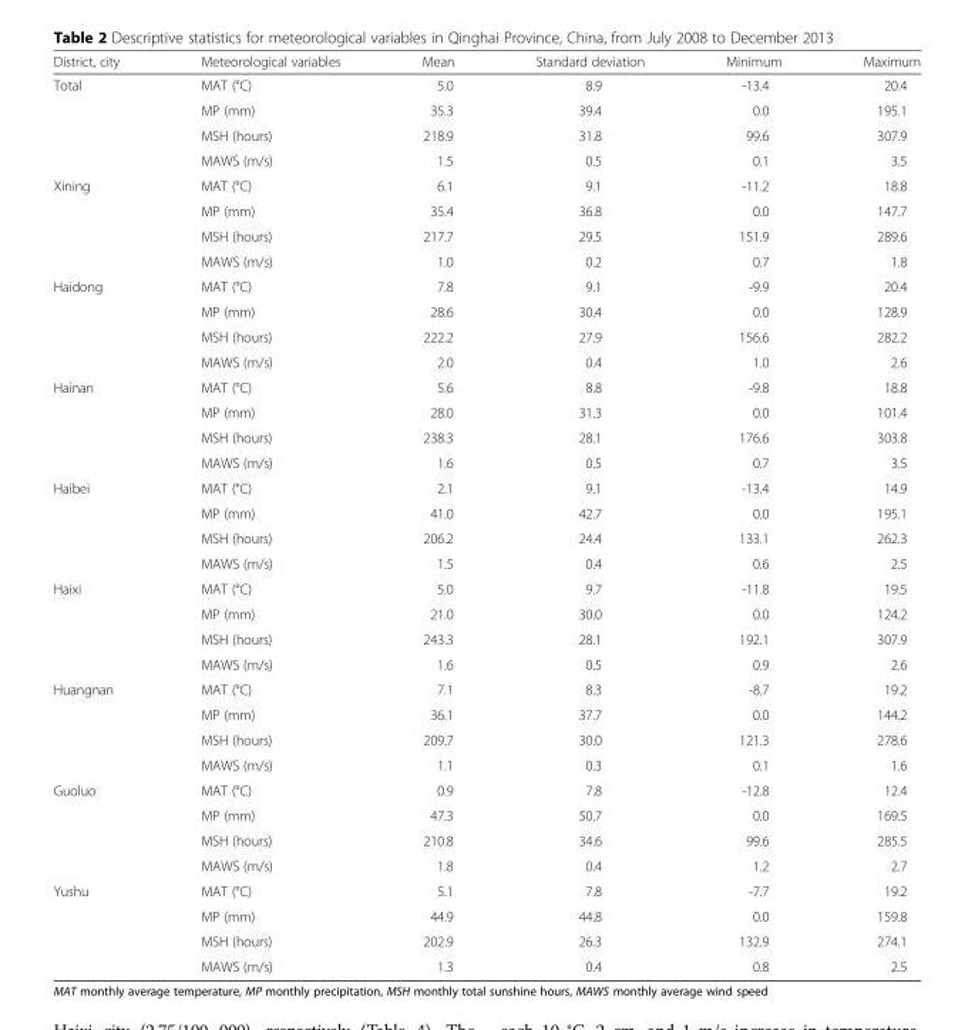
<table><thead><tr><td>District, city</td><td>Meteorological variables</td><td>Mean</td><td>Standard deviation</td><td>Minimum</td><td>Maximum</td></tr></thead><tbody><tr><td rowspan="4">Total</td><td>MAT (°C)</td><td>5.0</td><td>8.9</td><td>-13.4</td><td>20.4</td></tr><tr><td>MP (mm)</td><td>35.3</td><td>39.4</td><td>0.0</td><td>195.1</td></tr><tr><td>MSH (hours)</td><td>218.9</td><td>31.8</td><td>99.6</td><td>307.9</td></tr><tr><td>MAWS (m/s)</td><td>1.5</td><td>0.5</td><td>0.1</td><td>3.5</td></tr><tr><td rowspan="4">Xining</td><td>MAT (°C)</td><td>6.1</td><td>9.1</td><td>-11.2</td><td>18.8</td></tr><tr><td>MP (mm)</td><td>35.4</td><td>36.8</td><td>0.0</td><td>147.7</td></tr><tr><td>MSH (hours)</td><td>217.7</td><td>29.5</td><td>151.9</td><td>289.6</td></tr><tr><td>MAWS (m/s)</td><td>1.0</td><td>0.2</td><td>0.7</td><td>1.8</td></tr><tr><td rowspan="4">Haidong</td><td>MAT (°C)</td><td>7.8</td><td>9.1</td><td>-9.9</td><td>20.4</td></tr><tr><td>MP (mm)</td><td>28.6</td><td>30.4</td><td>0.0</td><td>128.9</td></tr><tr><td>MSH (hours)</td><td>222.2</td><td>27.9</td><td>156.6</td><td>282.2</td></tr><tr><td>MAWS (m/s)</td><td>2.0</td><td>0.4</td><td>1.0</td><td>2.6</td></tr><tr><td rowspan="4">Hainan</td><td>MAT (°C)</td><td>5.6</td><td>8.8</td><td>-9.8</td><td>18.8</td></tr><tr><td>MP (mm)</td><td>28.0</td><td>31.3</td><td>0.0</td><td>101.4</td></tr><tr><td>MSH (hours)</td><td>238.3</td><td>28.1</td><td>176.6</td><td>303.8</td></tr><tr><td>MAWS (m/s)</td><td>1.6</td><td>0.5</td><td>0.7</td><td>3.5</td></tr><tr><td rowspan="4">Haibei</td><td>MAT (°C)</td><td>2.1</td><td>9.1</td><td>-13.4</td><td>14.9</td></tr><tr><td>MP (mm)</td><td>41.0</td><td>42.7</td><td>0.0</td><td>195.1</td></tr><tr><td>MSH (hours)</td><td>206.2</td><td>24.4</td><td>133.1</td><td>262.3</td></tr><tr><td>MAWS (m/s)</td><td>1.5</td><td>0.4</td><td>0.6</td><td>2.5</td></tr><tr><td rowspan="4">Haixi</td><td>MAT (°C)</td><td>5.0</td><td>9.7</td><td>-11.8</td><td>19.5</td></tr><tr><td>MP (mm)</td><td>21.0</td><td>30.0</td><td>0.0</td><td>124.2</td></tr><tr><td>MSH (hours)</td><td>243.3</td><td>28.1</td><td>192.1</td><td>307.9</td></tr><tr><td>MAWS (m/s)</td><td>1.6</td><td>0.5</td><td>0.9</td><td>2.6</td></tr><tr><td rowspan="4">Huangnan</td><td>MAT (°C)</td><td>7.1</td><td>8.3</td><td>-8.7</td><td>19.2</td></tr><tr><td>MP (mm)</td><td>36.1</td><td>37.7</td><td>0.0</td><td>144.2</td></tr><tr><td>MSH (hours)</td><td>209.7</td><td>30.0</td><td>121.3</td><td>278.6</td></tr><tr><td>MAWS (m/s)</td><td>1.1</td><td>0.3</td><td>0.1</td><td>1.6</td></tr><tr><td rowspan="4">Guoluo</td><td>MAT (°C)</td><td>0.9</td><td>7.8</td><td>-12.8</td><td>12.4</td></tr><tr><td>MP (mm)</td><td>47.3</td><td>50.7</td><td>0.0</td><td>169.5</td></tr><tr><td>MSH (hours)</td><td>210.8</td><td>34.6</td><td>99.6</td><td>285.5</td></tr><tr><td>MAWS (m/s)</td><td>1.8</td><td>0.4</td><td>1.2</td><td>2.7</td></tr><tr><td rowspan="4">Yushu</td><td>MAT (°C)</td><td>5.1</td><td>7.8</td><td>-7.7</td><td>19.2</td></tr><tr><td>MP (mm)</td><td>44.9</td><td>44.8</td><td>0.0</td><td>159.8</td></tr><tr><td>MSH (hours)</td><td>202.9</td><td>26.3</td><td>132.9</td><td>274.1</td></tr><tr><td>MAWS (m/s)</td><td>1.3</td><td>0.4</td><td>0.8</td><td>2.5</td></tr></tbody></table>